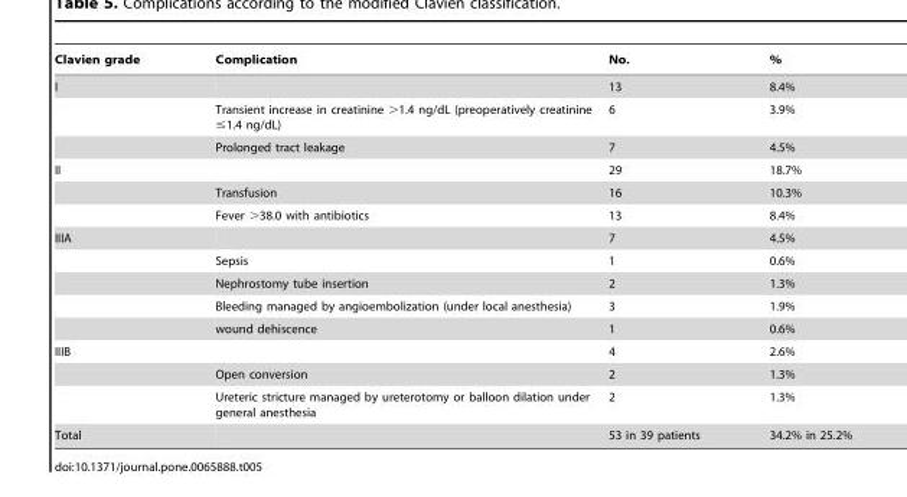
<table><thead><tr><td>Clavien grade</td><td>Complication</td><td>No.</td><td>%</td></tr></thead><tbody><tr><td rowspan="3">I</td><td></td><td>13</td><td>8.4%</td></tr><tr><td>Transient increase in creatinine &gt;1.4 ng/dL (preoperatively creatinine ≤1.4 ng/dL)</td><td>6</td><td>3.9%</td></tr><tr><td>Prolonged tract leakage</td><td>7</td><td>4.5%</td></tr><tr><td rowspan="3">II</td><td></td><td>29</td><td>18.7%</td></tr><tr><td>Transfusion</td><td>16</td><td>10.3%</td></tr><tr><td>Fever &gt;38.0 with antibiotics</td><td>13</td><td>8.4%</td></tr><tr><td rowspan="5">IIIA</td><td></td><td>7</td><td>4.5%</td></tr><tr><td>Sepsis</td><td>1</td><td>0.6%</td></tr><tr><td>Nephrostomy tube insertion</td><td>2</td><td>1.3%</td></tr><tr><td>Bleeding managed by angioembolization (under local anesthesia)</td><td>3</td><td>1.9%</td></tr><tr><td>wound dehiscence</td><td>1</td><td>0.6%</td></tr><tr><td rowspan="3">IIIB</td><td></td><td>4</td><td>2.6%</td></tr><tr><td>Open conversion</td><td>2</td><td>1.3%</td></tr><tr><td>Ureteric stricture managed by ureterotomy or balloon dilation under general anesthesia</td><td>2</td><td>1.3%</td></tr><tr><td>Total</td><td></td><td>53 in 39 patients</td><td>34.2% in 25.2%</td></tr></tbody></table>